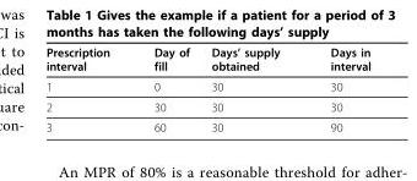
<table><thead><tr><td>Prescription interval</td><td>Day of fill</td><td>Days’ supply obtained</td><td>Days in interval</td></tr></thead><tbody><tr><td>1</td><td>0</td><td>30</td><td>30</td></tr><tr><td>2</td><td>30</td><td>30</td><td>30</td></tr><tr><td>3</td><td>60</td><td>30</td><td>90</td></tr></tbody></table>